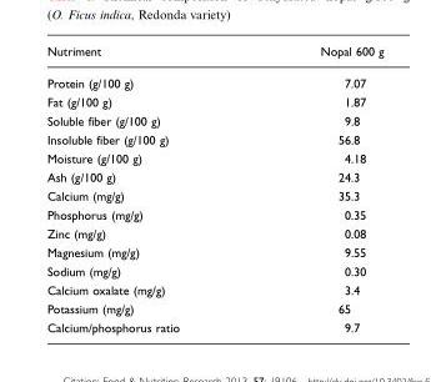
<table><thead><tr><td>Nutriment</td><td>Nopal 600 g</td></tr></thead><tbody><tr><td>Protein (g/100 g)</td><td>7.07</td></tr><tr><td>Fat (g/100 g)</td><td>1.87</td></tr><tr><td>Soluble fiber (g/100 g)</td><td>9.8</td></tr><tr><td>Insoluble fiber (g/100 g)</td><td>56.8</td></tr><tr><td>Moisture (g/100 g)</td><td>4.18</td></tr><tr><td>Ash (g/100 g)</td><td>24.3</td></tr><tr><td>Calcium (mg/g)</td><td>35.3</td></tr><tr><td>Phosphorus (mg/g)</td><td>0.35</td></tr><tr><td>Zinc (mg/g)</td><td>0.08</td></tr><tr><td>Magnesium (mg/g)</td><td>9.55</td></tr><tr><td>Sodium (mg/g)</td><td>0.30</td></tr><tr><td>Calcium oxalate (mg/g)</td><td>3.4</td></tr><tr><td>Potassium (mg/g)</td><td>65</td></tr><tr><td>Calcium/phosphorus ratio</td><td>9.7</td></tr></tbody></table>